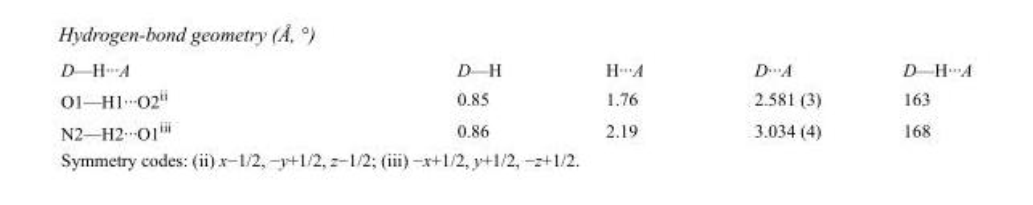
<table><tbody><tr><td>D—H···A</td><td>D—H</td><td>H···A</td><td>D···A</td><td>D—H···A</td></tr><tr><td>O1—H1···O2<sup>ii</sup></td><td>0.85</td><td>1.76</td><td>2.581 (3)</td><td>163</td></tr><tr><td>N2—H2···O1<sup>iii</sup></td><td>0.86</td><td>2.19</td><td>3.034 (4)</td><td>168</td></tr></tbody></table>